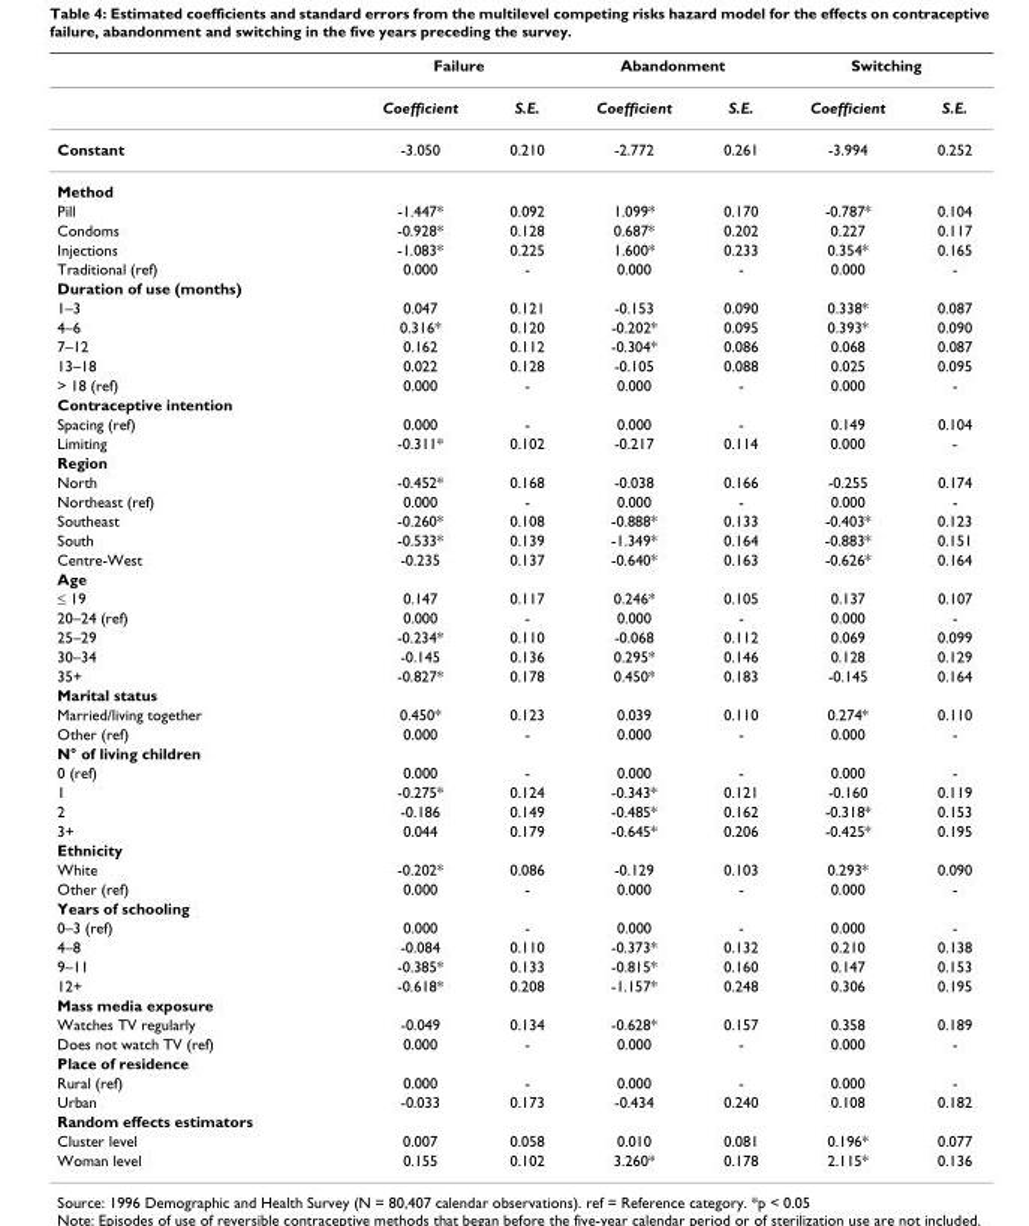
<table><thead><tr><td rowspan="2"></td><td colspan="2">Failure</td><td colspan="2">Abandonment</td><td colspan="2">Switching</td></tr><tr><td>Coefficient</td><td>S.E.</td><td>Coefficient</td><td>S.E.</td><td>Coefficient</td><td>S.E.</td></tr></thead><tbody><tr><td>Constant</td><td>-3.050</td><td>0.210</td><td>-2.772</td><td>0.261</td><td>-3.994</td><td>0.252</td></tr><tr><td colspan="7">Method</td></tr><tr><td>Pill</td><td>-1.447*</td><td>0.092</td><td>1.099*</td><td>0.170</td><td>-0.787*</td><td>0.104</td></tr><tr><td>Condoms</td><td>-0.928*</td><td>0.128</td><td>0.687*</td><td>0.202</td><td>0.227</td><td>0.117</td></tr><tr><td>Injections</td><td>-1.083*</td><td>0.225</td><td>1.600*</td><td>0.233</td><td>0.354*</td><td>0.165</td></tr><tr><td>Traditional (ref)</td><td>0.000</td><td>-</td><td>0.000</td><td>-</td><td>0.000</td><td>-</td></tr><tr><td colspan="7">Duration of use (months)</td></tr><tr><td>1–3</td><td>0.047</td><td>0.121</td><td>-0.153</td><td>0.090</td><td>0.338*</td><td>0.087</td></tr><tr><td>4–6</td><td>0.316*</td><td>0.120</td><td>-0.202*</td><td>0.095</td><td>0.393*</td><td>0.090</td></tr><tr><td>7–12</td><td>0.162</td><td>0.112</td><td>-0.304*</td><td>0.086</td><td>0.068</td><td>0.087</td></tr><tr><td>13–18</td><td>0.022</td><td>0.128</td><td>-0.105</td><td>0.088</td><td>0.025</td><td>0.095</td></tr><tr><td>&gt; 18 (ref)</td><td>0.000</td><td>-</td><td>0.000</td><td>-</td><td>0.000</td><td>-</td></tr><tr><td colspan="7">Contraceptive intention</td></tr><tr><td>Spacing (ref)</td><td>0.000</td><td>-</td><td>0.000</td><td>-</td><td>0.149</td><td>0.104</td></tr><tr><td>Limiting</td><td>-0.311*</td><td>0.102</td><td>-0.217</td><td>0.114</td><td>0.000</td><td>-</td></tr><tr><td colspan="7">Region</td></tr><tr><td>North</td><td>-0.452*</td><td>0.168</td><td>-0.038</td><td>0.166</td><td>-0.255</td><td>0.174</td></tr><tr><td>Northeast (ref)</td><td>0.000</td><td>-</td><td>0.000</td><td>-</td><td>0.000</td><td>-</td></tr><tr><td>Southeast</td><td>-0.260*</td><td>0.108</td><td>-0.888*</td><td>0.133</td><td>-0.403*</td><td>0.123</td></tr><tr><td>South</td><td>-0.533*</td><td>0.139</td><td>-1.349*</td><td>0.164</td><td>-0.883*</td><td>0.151</td></tr><tr><td>Centre-West</td><td>-0.235</td><td>0.137</td><td>-0.640*</td><td>0.163</td><td>-0.626*</td><td>0.164</td></tr><tr><td colspan="7">Age</td></tr><tr><td>≤ 19</td><td>0.147</td><td>0.117</td><td>0.246*</td><td>0.105</td><td>0.137</td><td>0.107</td></tr><tr><td>20–24 (ref)</td><td>0.000</td><td>-</td><td>0.000</td><td>-</td><td>0.000</td><td>-</td></tr><tr><td>25–29</td><td>-0.234*</td><td>0.110</td><td>-0.068</td><td>0.112</td><td>0.069</td><td>0.099</td></tr><tr><td>30–34</td><td>-0.145</td><td>0.136</td><td>0.295*</td><td>0.146</td><td>0.128</td><td>0.129</td></tr><tr><td>35+</td><td>-0.827*</td><td>0.178</td><td>0.450*</td><td>0.183</td><td>-0.145</td><td>0.164</td></tr><tr><td colspan="7">Marital status</td></tr><tr><td>Married/living together</td><td>0.450*</td><td>0.123</td><td>0.039</td><td>0.110</td><td>0.274*</td><td>0.110</td></tr><tr><td>Other (ref)</td><td>0.000</td><td>-</td><td>0.000</td><td>-</td><td>0.000</td><td>-</td></tr><tr><td colspan="7">N° of living children</td></tr><tr><td>0 (ref)</td><td>0.000</td><td>-</td><td>0.000</td><td>-</td><td>0.000</td><td>-</td></tr><tr><td>1</td><td>-0.275*</td><td>0.124</td><td>-0.343*</td><td>0.121</td><td>-0.160</td><td>0.119</td></tr><tr><td>2</td><td>-0.186</td><td>0.149</td><td>-0.485*</td><td>0.162</td><td>-0.318*</td><td>0.153</td></tr><tr><td>3+</td><td>0.044</td><td>0.179</td><td>-0.645*</td><td>0.206</td><td>-0.425*</td><td>0.195</td></tr><tr><td colspan="7">Ethnicity</td></tr><tr><td>White</td><td>-0.202*</td><td>0.086</td><td>-0.129</td><td>0.103</td><td>0.293*</td><td>0.090</td></tr><tr><td>Other (ref)</td><td>0.000</td><td>-</td><td>0.000</td><td>-</td><td>0.000</td><td>-</td></tr><tr><td colspan="7">Years of schooling</td></tr><tr><td>0–3 (ref)</td><td>0.000</td><td>-</td><td>0.000</td><td>-</td><td>0.000</td><td>-</td></tr><tr><td>4–8</td><td>-0.084</td><td>0.110</td><td>-0.373*</td><td>0.132</td><td>0.210</td><td>0.138</td></tr><tr><td>9–11</td><td>-0.385*</td><td>0.133</td><td>-0.815*</td><td>0.160</td><td>0.147</td><td>0.153</td></tr><tr><td>12+</td><td>-0.618*</td><td>0.208</td><td>-1.157*</td><td>0.248</td><td>0.306</td><td>0.195</td></tr><tr><td colspan="7">Mass media exposure</td></tr><tr><td>Watches TV regularly</td><td>-0.049</td><td>0.134</td><td>-0.628*</td><td>0.157</td><td>0.358</td><td>0.189</td></tr><tr><td>Does not watch TV (ref)</td><td>0.000</td><td>-</td><td>0.000</td><td>-</td><td>0.000</td><td>-</td></tr><tr><td colspan="7">Place of residence</td></tr><tr><td>Rural (ref)</td><td>0.000</td><td>-</td><td>0.000</td><td>-</td><td>0.000</td><td>-</td></tr><tr><td>Urban</td><td>-0.033</td><td>0.173</td><td>-0.434</td><td>0.240</td><td>0.108</td><td>0.182</td></tr><tr><td colspan="7">Random effects estimators</td></tr><tr><td>Cluster level</td><td>0.007</td><td>0.058</td><td>0.010</td><td>0.081</td><td>0.196*</td><td>0.077</td></tr><tr><td>Woman level</td><td>0.155</td><td>0.102</td><td>3.260*</td><td>0.178</td><td>2.115*</td><td>0.136</td></tr></tbody></table>